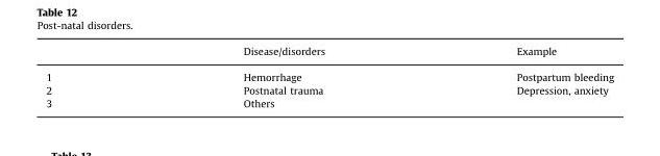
<table><thead><tr><td></td><td>Disease/disorders</td><td>Example</td></tr></thead><tbody><tr><td>1</td><td>Hemorrhage</td><td>Postpartum bleeding</td></tr><tr><td>2</td><td>Postnatal trauma</td><td>Depression, anxiety</td></tr><tr><td>3</td><td>Others</td><td></td></tr></tbody></table>